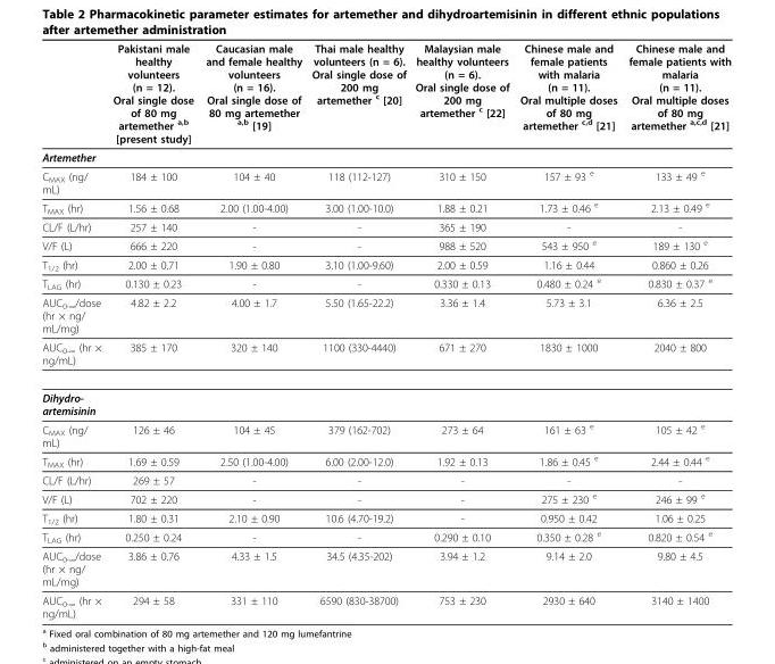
<table><thead><tr><td></td><td>Pakistani male healthy volunteers (n = 12). Oral single dose of 80 mg artemether a,b [present study]</td><td>Caucasian male and female healthy volunteers (n = 16). Oral single dose of 80 mg artemether a,b [19]</td><td>Thai male healthy volunteers (n = 6). Oral single dose of 200 mg artemether c [20]</td><td>Malaysian male healthy volunteers (n = 6). Oral single dose of 200 mg artemether c [22]</td><td>Chinese male and female patients with malaria (n = 11). Oral multiple doses of 80 mg artemether c,d [21]</td><td>Chinese male and female patients with malaria (n = 11). Oral multiple doses of 80 mg artemether a,c,d [21]</td></tr></thead><tbody><tr><td colspan="7">Artemether</td></tr><tr><td>CMAX (ng/ mL)</td><td>184 ± 100</td><td>104 ± 40</td><td>118 (112-127)</td><td>310 ± 150</td><td>157 ± 93 e</td><td>133 ± 49 e</td></tr><tr><td>TMAX (hr)</td><td>1.56 ± 0.68</td><td>2.00 (1.00-4.00)</td><td>3.00 (1.00-10.0)</td><td>1.88 ± 0.21</td><td>1.73 ± 0.46 e</td><td>2.13 ± 0.49 e</td></tr><tr><td>CL/F (L/hr)</td><td>257 ± 140</td><td>-</td><td>-</td><td>365 ± 190</td><td>-</td><td>-</td></tr><tr><td>V/F (L)</td><td>666 ± 220</td><td>-</td><td>-</td><td>988 ± 520</td><td>543 ± 950 e</td><td>189 ± 130 e</td></tr><tr><td>T1/2 (hr)</td><td>2.00 ± 0.71</td><td>1.90 ± 0.80</td><td>3.10 (1.00-9.60)</td><td>2.00 ± 0.59</td><td>1.16 ± 0.44</td><td>0.860 ± 0.26</td></tr><tr><td>TLAG (hr)</td><td>0.130 ± 0.23</td><td>-</td><td>-</td><td>0.330 ± 0.13</td><td>0.480 ± 0.24 e</td><td>0.830 ± 0.37 e</td></tr><tr><td>AUC0-∞/dose (hr × ng/ mL/mg)</td><td>4.82 ± 2.2</td><td>4.00 ± 1.7</td><td>5.50 (1.65-22.2)</td><td>3.36 ± 1.4</td><td>5.73 ± 3.1</td><td>6.36 ± 2.5</td></tr><tr><td>AUC0-∞ (hr × ng/mL)</td><td>385 ± 170</td><td>320 ± 140</td><td>1100 (330-4440)</td><td>671 ± 270</td><td>1830 ± 1000</td><td>2040 ± 800</td></tr><tr><td colspan="7">Dihydro- artemisinin</td></tr><tr><td>CMAX (ng/ mL)</td><td>126 ± 46</td><td>104 ± 45</td><td>379 (162-702)</td><td>273 ± 64</td><td>161 ± 63 e</td><td>105 ± 42 e</td></tr><tr><td>TMAX (hr)</td><td>1.69 ± 0.59</td><td>2.50 (1.00-4.00)</td><td>6.00 (2.00-12.0)</td><td>1.92 ± 0.13</td><td>1.86 ± 0.45 e</td><td>2.44 ± 0.44 e</td></tr><tr><td>CL/F (L/hr)</td><td>269 ± 57</td><td>-</td><td>-</td><td>-</td><td>-</td><td>-</td></tr><tr><td>V/F (L)</td><td>702 ± 220</td><td>-</td><td>-</td><td>-</td><td>275 ± 230 e</td><td>246 ± 99 e</td></tr><tr><td>T1/2 (hr)</td><td>1.80 ± 0.31</td><td>2.10 ± 0.90</td><td>10.6 (4.70-19.2)</td><td>-</td><td>0.950 ± 0.42</td><td>1.06 ± 0.25</td></tr><tr><td>TLAG (hr)</td><td>0.250 ± 0.24</td><td>-</td><td>-</td><td>0.290 ± 0.10</td><td>0.350 ± 0.28 e</td><td>0.820 ± 0.54 e</td></tr><tr><td>AUC0-∞/dose (hr × ng/ mL/mg)</td><td>3.86 ± 0.76</td><td>4.33 ± 1.5</td><td>34.5 (4.35-202)</td><td>3.94 ± 1.2</td><td>9.14 ± 2.0</td><td>9.80 ± 4.5</td></tr><tr><td>AUC0-∞ (hr × ng/mL)</td><td>294 ± 58</td><td>331 ± 110</td><td>6590 (830-38700)</td><td>753 ± 230</td><td>2930 ± 640</td><td>3140 ± 1400</td></tr></tbody></table>